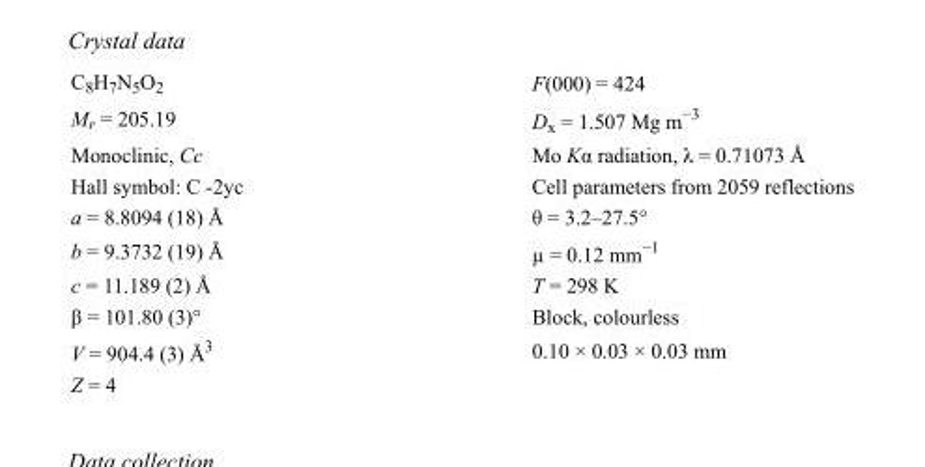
<table><tbody><tr><td>C<sub>8</sub>H<sub>7</sub>N<sub>5</sub>O<sub>2</sub></td><td>F(000) = 424</td></tr><tr><td>M<sub>r</sub> = 205.19</td><td>D<sub>x</sub> = 1.507 Mg m<sup>−3</sup></td></tr><tr><td>Monoclinic, Cc</td><td>Mo Kα radiation, λ = 0.71073 Å</td></tr><tr><td>Hall symbol: C -2yc</td><td>Cell parameters from 2059 reflections</td></tr><tr><td>a = 8.8094 (18) Å</td><td>θ = 3.2–27.5°</td></tr><tr><td>b = 9.3732 (19) Å</td><td>µ = 0.12 mm<sup>−1</sup></td></tr><tr><td>c = 11.189 (2) Å</td><td>T = 298 K</td></tr><tr><td>β = 101.80 (3)°</td><td>Block, colourless</td></tr><tr><td>V = 904.4 (3) Å<sup>3</sup></td><td>0.10 × 0.03 × 0.03 mm</td></tr><tr><td>Z = 4</td><td></td></tr></tbody></table>